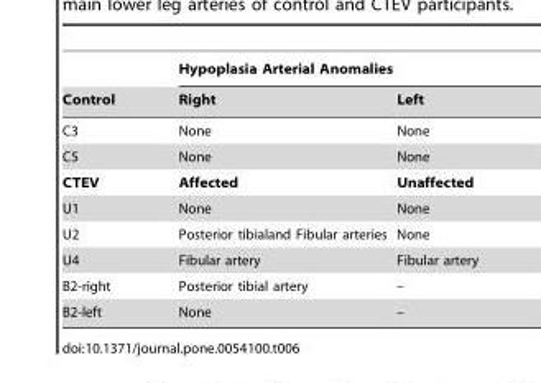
<table><thead><tr><td rowspan="2">Control</td><td colspan="2">Hypoplasia Arterial Anomalies</td></tr><tr><td>Right</td><td>Left</td></tr></thead><tbody><tr><td>C3</td><td>None</td><td>None</td></tr><tr><td>C5</td><td>None</td><td>None</td></tr><tr><td>CTEV</td><td>Affected</td><td>Unaffected</td></tr><tr><td>U1</td><td>None</td><td>None</td></tr><tr><td>U2</td><td>Posterior tibialand Fibular arteries</td><td>None</td></tr><tr><td>U4</td><td>Fibular artery</td><td>Fibular artery</td></tr><tr><td>B2-right</td><td>Posterior tibial artery</td><td>–</td></tr><tr><td>B2-left</td><td>None</td><td>–</td></tr></tbody></table>